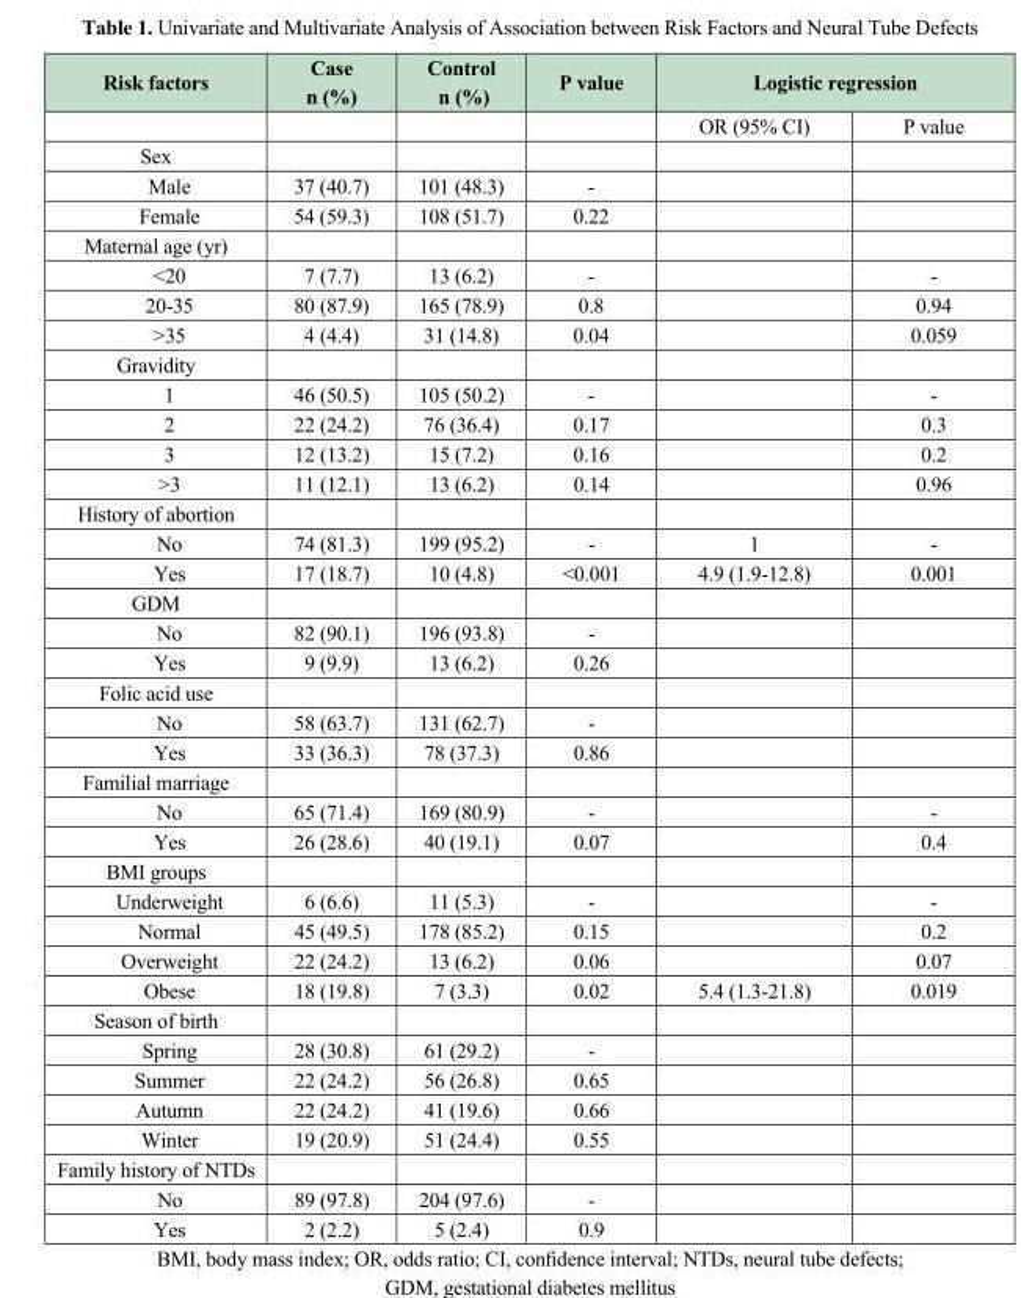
<table><thead><tr><td rowspan="2">Risk factors</td><td rowspan="2">Case n (%)</td><td rowspan="2">Control n (%)</td><td rowspan="2">P value</td><td colspan="2">Logistic regression</td></tr><tr><td>OR (95% CI)</td><td>P value</td></tr></thead><tbody><tr><td colspan="6">Sex</td></tr><tr><td>Male</td><td>37 (40.7)</td><td>101 (48.3)</td><td>-</td><td></td><td></td></tr><tr><td>Female</td><td>54 (59.3)</td><td>108 (51.7)</td><td>0.22</td><td></td><td></td></tr><tr><td colspan="6">Maternal age (yr)</td></tr><tr><td>&lt;20</td><td>7 (7.7)</td><td>13 (6.2)</td><td>-</td><td></td><td>-</td></tr><tr><td>20-35</td><td>80 (87.9)</td><td>165 (78.9)</td><td>0.8</td><td></td><td>0.94</td></tr><tr><td>&gt;35</td><td>4 (4.4)</td><td>31 (14.8)</td><td>0.04</td><td></td><td>0.059</td></tr><tr><td colspan="6">Gravidity</td></tr><tr><td>1</td><td>46 (50.5)</td><td>105 (50.2)</td><td>-</td><td></td><td>-</td></tr><tr><td>2</td><td>22 (24.2)</td><td>76 (36.4)</td><td>0.17</td><td></td><td>0.3</td></tr><tr><td>3</td><td>12 (13.2)</td><td>15 (7.2)</td><td>0.16</td><td></td><td>0.2</td></tr><tr><td>&gt;3</td><td>11 (12.1)</td><td>13 (6.2)</td><td>0.14</td><td></td><td>0.96</td></tr><tr><td colspan="6">History of abortion</td></tr><tr><td>No</td><td>74 (81.3)</td><td>199 (95.2)</td><td>-</td><td>1</td><td>-</td></tr><tr><td>Yes</td><td>17 (18.7)</td><td>10 (4.8)</td><td>&lt;0.001</td><td>4.9 (1.9-12.8)</td><td>0.001</td></tr><tr><td colspan="6">GDM</td></tr><tr><td>No</td><td>82 (90.1)</td><td>196 (93.8)</td><td>-</td><td></td><td></td></tr><tr><td>Yes</td><td>9 (9.9)</td><td>13 (6.2)</td><td>0.26</td><td></td><td></td></tr><tr><td colspan="6">Folic acid use</td></tr><tr><td>No</td><td>58 (63.7)</td><td>131 (62.7)</td><td>-</td><td></td><td></td></tr><tr><td>Yes</td><td>33 (36.3)</td><td>78 (37.3)</td><td>0.86</td><td></td><td></td></tr><tr><td colspan="6">Familial marriage</td></tr><tr><td>No</td><td>65 (71.4)</td><td>169 (80.9)</td><td>-</td><td></td><td>-</td></tr><tr><td>Yes</td><td>26 (28.6)</td><td>40 (19.1)</td><td>0.07</td><td></td><td>0.4</td></tr><tr><td colspan="6">BMI groups</td></tr><tr><td>Underweight</td><td>6 (6.6)</td><td>11 (5.3)</td><td>-</td><td></td><td>-</td></tr><tr><td>Normal</td><td>45 (49.5)</td><td>178 (85.2)</td><td>0.15</td><td></td><td>0.2</td></tr><tr><td>Overweight</td><td>22 (24.2)</td><td>13 (6.2)</td><td>0.06</td><td></td><td>0.07</td></tr><tr><td>Obese</td><td>18 (19.8)</td><td>7 (3.3)</td><td>0.02</td><td>5.4 (1.3-21.8)</td><td>0.019</td></tr><tr><td colspan="6">Season of birth</td></tr><tr><td>Spring</td><td>28 (30.8)</td><td>61 (29.2)</td><td>-</td><td></td><td></td></tr><tr><td>Summer</td><td>22 (24.2)</td><td>56 (26.8)</td><td>0.65</td><td></td><td></td></tr><tr><td>Autumn</td><td>22 (24.2)</td><td>41 (19.6)</td><td>0.66</td><td></td><td></td></tr><tr><td>Winter</td><td>19 (20.9)</td><td>51 (24.4)</td><td>0.55</td><td></td><td></td></tr><tr><td colspan="6">Family history of NTDs</td></tr><tr><td>No</td><td>89 (97.8)</td><td>204 (97.6)</td><td>-</td><td></td><td></td></tr><tr><td>Yes</td><td>2 (2.2)</td><td>5 (2.4)</td><td>0.9</td><td></td><td></td></tr></tbody></table>